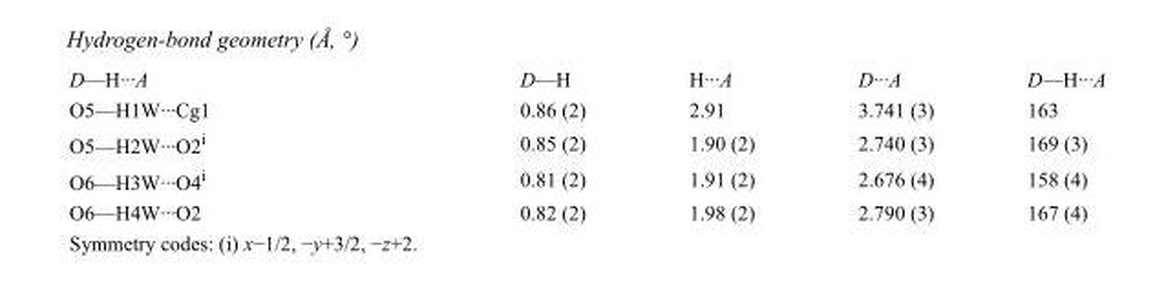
<table><tbody><tr><td>D—H···A</td><td>D—H</td><td>H···A</td><td>D···A</td><td>D—H···A</td></tr><tr><td>O5—H1W···Cg1</td><td>0.86 (2)</td><td>2.91</td><td>3.741 (3)</td><td>163</td></tr><tr><td>O5—H2W···O2<sup>i</sup></td><td>0.85 (2)</td><td>1.90 (2)</td><td>2.740 (3)</td><td>169 (3)</td></tr><tr><td>O6—H3W···O4<sup>i</sup></td><td>0.81 (2)</td><td>1.91 (2)</td><td>2.676 (4)</td><td>158 (4)</td></tr><tr><td>O6—H4W···O2</td><td>0.82 (2)</td><td>1.98 (2)</td><td>2.790 (3)</td><td>167 (4)</td></tr></tbody></table>